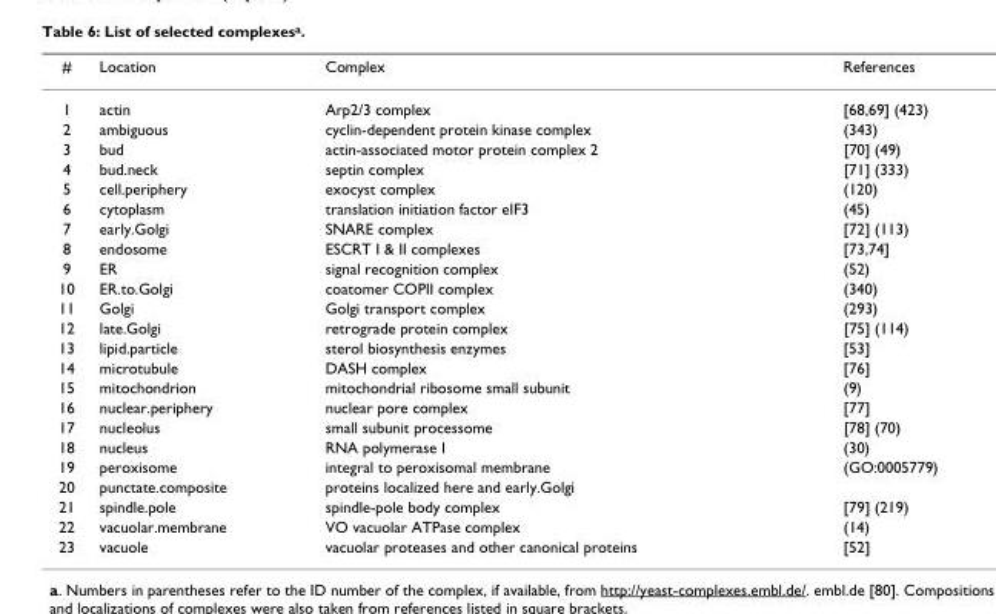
<table><thead><tr><td>#</td><td>Location</td><td>Complex</td><td>References</td></tr></thead><tbody><tr><td>1</td><td>actin</td><td>Arp2/3 complex</td><td>[68,69] (423)</td></tr><tr><td>2</td><td>ambiguous</td><td>cyclin-dependent protein kinase complex</td><td>(343)</td></tr><tr><td>3</td><td>bud</td><td>actin-associated motor protein complex 2</td><td>[70] (49)</td></tr><tr><td>4</td><td>bud.neck</td><td>septin complex</td><td>[71] (333)</td></tr><tr><td>5</td><td>cell.periphery</td><td>exocyst complex</td><td>(120)</td></tr><tr><td>6</td><td>cytoplasm</td><td>translation initiation factor eIF3</td><td>(45)</td></tr><tr><td>7</td><td>early.Golgi</td><td>SNARE complex</td><td>[72] (113)</td></tr><tr><td>8</td><td>endosome</td><td>ESCRT I &amp; II complexes</td><td>[73,74]</td></tr><tr><td>9</td><td>ER</td><td>signal recognition complex</td><td>(52)</td></tr><tr><td>10</td><td>ER.to.Golgi</td><td>coatomer COPII complex</td><td>(340)</td></tr><tr><td>11</td><td>Golgi</td><td>Golgi transport complex</td><td>(293)</td></tr><tr><td>12</td><td>late.Golgi</td><td>retrograde protein complex</td><td>[75] (114)</td></tr><tr><td>13</td><td>lipid.particle</td><td>sterol biosynthesis enzymes</td><td>[53]</td></tr><tr><td>14</td><td>microtubule</td><td>DASH complex</td><td>[76]</td></tr><tr><td>15</td><td>mitochondrion</td><td>mitochondrial ribosome small subunit</td><td>(9)</td></tr><tr><td>16</td><td>nuclear.periphery</td><td>nuclear pore complex</td><td>[77]</td></tr><tr><td>17</td><td>nucleolus</td><td>small subunit processome</td><td>[78] (70)</td></tr><tr><td>18</td><td>nucleus</td><td>RNA polymerase I</td><td>(30)</td></tr><tr><td>19</td><td>peroxisome</td><td>integral to peroxisomal membrane</td><td>(GO:0005779)</td></tr><tr><td>20</td><td>punctate.composite</td><td>proteins localized here and early.Golgi</td><td></td></tr><tr><td>21</td><td>spindle.pole</td><td>spindle-pole body complex</td><td>[79] (219)</td></tr><tr><td>22</td><td>vacuolar.membrane</td><td>VO vacuolar ATPase complex</td><td>(14)</td></tr><tr><td>23</td><td>vacuole</td><td>vacuolar proteases and other canonical proteins</td><td>[52]</td></tr></tbody></table>